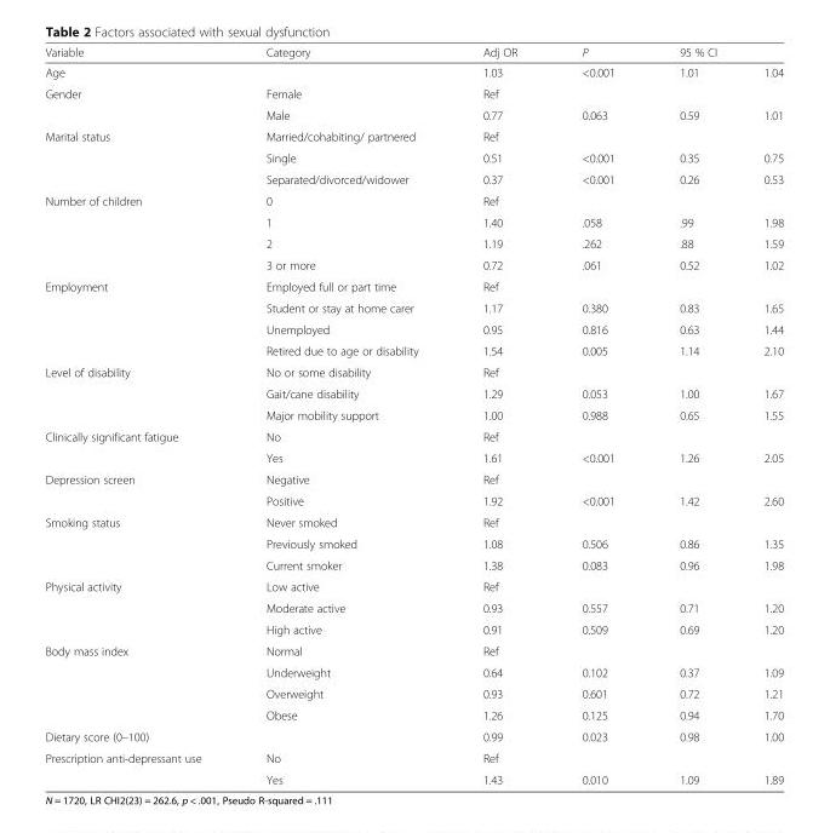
<table><thead><tr><td rowspan="2">Variable Age</td><td rowspan="2">Category</td><td rowspan="2">Adj OR 1.03</td><td rowspan="2">P &lt;0.001</td><td colspan="2">95 % CI</td></tr><tr><td>1.01</td><td>1.04</td></tr></thead><tbody><tr><td rowspan="2">Gender</td><td>Female</td><td>Ref</td><td></td><td></td><td></td></tr><tr><td>Male</td><td>0.77</td><td>0.063</td><td>0.59</td><td>1.01</td></tr><tr><td rowspan="3">Marital status</td><td>Married/cohabiting/ partnered</td><td>Ref</td><td></td><td></td><td></td></tr><tr><td>Single</td><td>0.51</td><td>&lt;0.001</td><td>0.35</td><td>0.75</td></tr><tr><td>Separated/divorced/widower</td><td>0.37</td><td>&lt;0.001</td><td>0.26</td><td>0.53</td></tr><tr><td rowspan="4">Number of children</td><td>0</td><td>Ref</td><td></td><td></td><td></td></tr><tr><td>1</td><td>1.40</td><td>.058</td><td>.99</td><td>1.98</td></tr><tr><td>2</td><td>1.19</td><td>.262</td><td>.88</td><td>1.59</td></tr><tr><td>3 or more</td><td>0.72</td><td>.061</td><td>0.52</td><td>1.02</td></tr><tr><td rowspan="4">Employment</td><td>Employed full or part time</td><td>Ref</td><td></td><td></td><td></td></tr><tr><td>Student or stay at home carer</td><td>1.17</td><td>0.380</td><td>0.83</td><td>1.65</td></tr><tr><td>Unemployed</td><td>0.95</td><td>0.816</td><td>0.63</td><td>1.44</td></tr><tr><td>Retired due to age or disability</td><td>1.54</td><td>0.005</td><td>1.14</td><td>2.10</td></tr><tr><td rowspan="3">Level of disability</td><td>No or some disability</td><td>Ref</td><td></td><td></td><td></td></tr><tr><td>Gait/cane disability</td><td>1.29</td><td>0.053</td><td>1.00</td><td>1.67</td></tr><tr><td>Major mobility support</td><td>1.00</td><td>0.988</td><td>0.65</td><td>1.55</td></tr><tr><td rowspan="2">Clinically significant fatigue</td><td>No</td><td>Ref</td><td></td><td></td><td></td></tr><tr><td>Yes</td><td>1.61</td><td>&lt;0.001</td><td>1.26</td><td>2.05</td></tr><tr><td rowspan="2">Depression screen</td><td>Negative</td><td>Ref</td><td></td><td></td><td></td></tr><tr><td>Positive</td><td>1.92</td><td>&lt;0.001</td><td>1.42</td><td>2.60</td></tr><tr><td rowspan="3">Smoking status</td><td>Never smoked</td><td>Ref</td><td></td><td></td><td></td></tr><tr><td>Previously smoked</td><td>1.08</td><td>0.506</td><td>0.86</td><td>1.35</td></tr><tr><td>Current smoker</td><td>1.38</td><td>0.083</td><td>0.96</td><td>1.98</td></tr><tr><td rowspan="3">Physical activity</td><td>Low active</td><td>Ref</td><td></td><td></td><td></td></tr><tr><td>Moderate active</td><td>0.93</td><td>0.557</td><td>0.71</td><td>1.20</td></tr><tr><td>High active</td><td>0.91</td><td>0.509</td><td>0.69</td><td>1.20</td></tr><tr><td rowspan="4">Body mass index</td><td>Normal</td><td>Ref</td><td></td><td></td><td></td></tr><tr><td>Underweight</td><td>0.64</td><td>0.102</td><td>0.37</td><td>1.09</td></tr><tr><td>Overweight</td><td>0.93</td><td>0.601</td><td>0.72</td><td>1.21</td></tr><tr><td>Obese</td><td>1.26</td><td>0.125</td><td>0.94</td><td>1.70</td></tr><tr><td colspan="2">Dietary score (0–100)</td><td>0.99</td><td>0.023</td><td>0.98</td><td>1.00</td></tr><tr><td rowspan="2">Prescription anti-depressant use</td><td>No</td><td>Ref</td><td></td><td></td><td></td></tr><tr><td>Yes</td><td>1.43</td><td>0.010</td><td>1.09</td><td>1.89</td></tr></tbody></table>